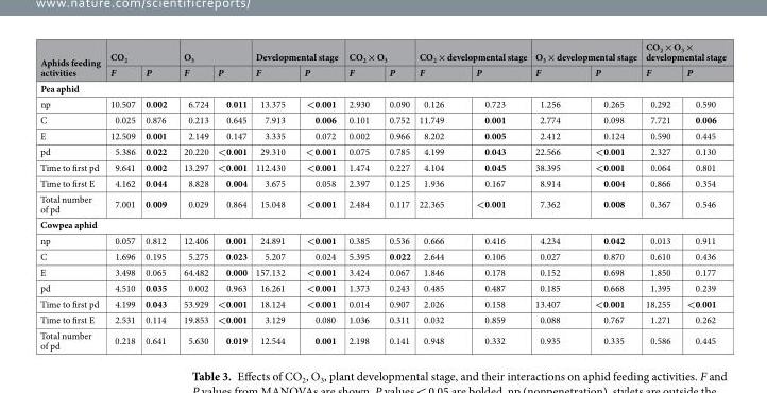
<table><thead><tr><td rowspan="2">Aphids feeding activities</td><td colspan="2">CO<sub>2</sub></td><td colspan="2">O<sub>3</sub></td><td colspan="2">Developmental stage</td><td colspan="2">CO<sub>2</sub> × O<sub>3</sub></td><td colspan="2">CO<sub>2</sub> × developmental stage</td><td colspan="2">O<sub>3</sub> × developmental stage</td><td colspan="2">CO<sub>2</sub> × O<sub>3</sub> × developmental stage</td></tr><tr><td>F</td><td>P</td><td>F</td><td>P</td><td>F</td><td>P</td><td>F</td><td>P</td><td>F</td><td>P</td><td>F</td><td>P</td><td>F</td><td>P</td></tr></thead><tbody><tr><td colspan="15">Pea aphid</td></tr><tr><td>np</td><td>10.507</td><td>0.002</td><td>6.724</td><td>0.011</td><td>13.375</td><td>&lt;0.001</td><td>2.930</td><td>0.090</td><td>0.126</td><td>0.723</td><td>1.256</td><td>0.265</td><td>0.292</td><td>0.590</td></tr><tr><td>C</td><td>0.025</td><td>0.876</td><td>0.213</td><td>0.645</td><td>7.913</td><td>0.006</td><td>0.101</td><td>0.752</td><td>11.749</td><td>0.001</td><td>2.774</td><td>0.098</td><td>7.721</td><td>0.006</td></tr><tr><td>E</td><td>12.509</td><td>0.001</td><td>2.149</td><td>0.147</td><td>3.335</td><td>0.072</td><td>0.002</td><td>0.966</td><td>8.202</td><td>0.005</td><td>2.412</td><td>0.124</td><td>0.590</td><td>0.445</td></tr><tr><td>pd</td><td>5.386</td><td>0.022</td><td>20.220</td><td>&lt;0.001</td><td>29.310</td><td>&lt; 0.001</td><td>0.075</td><td>0.785</td><td>4.199</td><td>0.043</td><td>22.566</td><td>&lt;0.001</td><td>2.327</td><td>0.130</td></tr><tr><td>Time to first pd</td><td>9.641</td><td>0.002</td><td>13.297</td><td>&lt;0.001</td><td>112.430</td><td>&lt;0.001</td><td>1.474</td><td>0.227</td><td>4.104</td><td>0.045</td><td>38.395</td><td>&lt;0.001</td><td>0.064</td><td>0.801</td></tr><tr><td>Time to first E</td><td>4.162</td><td>0.044</td><td>8.828</td><td>0.004</td><td>3.675</td><td>0.058</td><td>2.397</td><td>0.125</td><td>1.936</td><td>0.167</td><td>8.914</td><td>0.004</td><td>0.866</td><td>0.354</td></tr><tr><td>Total number of pd</td><td>7.001</td><td>0.009</td><td>0.029</td><td>0.864</td><td>15.048</td><td>&lt;0.001</td><td>2.484</td><td>0.117</td><td>22.365</td><td>&lt;0.001</td><td>7.362</td><td>0.008</td><td>0.367</td><td>0.546</td></tr><tr><td colspan="15">Cowpea aphid</td></tr><tr><td>np</td><td>0.057</td><td>0.812</td><td>12.406</td><td>0.001</td><td>24.891</td><td>&lt;0.001</td><td>0.385</td><td>0.536</td><td>0.666</td><td>0.416</td><td>4.234</td><td>0.042</td><td>0.013</td><td>0.911</td></tr><tr><td>C</td><td>1.696</td><td>0.195</td><td>5.275</td><td>0.023</td><td>5.207</td><td>0.024</td><td>5.395</td><td>0.022</td><td>2.644</td><td>0.106</td><td>0.027</td><td>0.870</td><td>0.610</td><td>0.436</td></tr><tr><td>E</td><td>3.498</td><td>0.065</td><td>64.482</td><td>0.000</td><td>157.132</td><td>&lt;0.001</td><td>3.424</td><td>0.067</td><td>1.846</td><td>0.178</td><td>0.152</td><td>0.698</td><td>1.850</td><td>0.177</td></tr><tr><td>pd</td><td>4.510</td><td>0.035</td><td>0.002</td><td>0.963</td><td>16.261</td><td>&lt;0.001</td><td>1.373</td><td>0.243</td><td>0.485</td><td>0.487</td><td>0.185</td><td>0.668</td><td>1.395</td><td>0.239</td></tr><tr><td>Time to first pd</td><td>4.199</td><td>0.043</td><td>53.929</td><td>&lt;0.001</td><td>18.124</td><td>&lt;0.001</td><td>0.014</td><td>0.907</td><td>2.026</td><td>0.158</td><td>13.407</td><td>&lt;0.001</td><td>18.255</td><td>&lt;0.001</td></tr><tr><td>Time to first E</td><td>2.531</td><td>0.114</td><td>19.853</td><td>&lt;0.001</td><td>3.129</td><td>0.080</td><td>1.036</td><td>0.311</td><td>0.032</td><td>0.859</td><td>0.088</td><td>0.767</td><td>1.271</td><td>0.262</td></tr><tr><td>Total number of pd</td><td>0.218</td><td>0.641</td><td>5.630</td><td>0.019</td><td>12.544</td><td>0.001</td><td>2.198</td><td>0.141</td><td>0.948</td><td>0.332</td><td>0.935</td><td>0.335</td><td>0.586</td><td>0.445</td></tr></tbody></table>